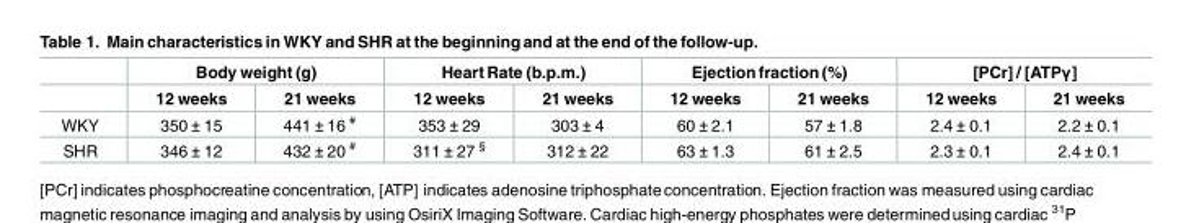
<table><thead><tr><td rowspan="2"></td><td colspan="2">Body weight (g)</td><td colspan="2">Heart Rate (b.p.m.)</td><td colspan="2">Ejection fraction (%)</td><td colspan="2">[PCr] / [ATPγ]</td></tr><tr><td>12 weeks</td><td>21 weeks</td><td>12 weeks</td><td>21 weeks</td><td>12 weeks</td><td>21 weeks</td><td>12 weeks</td><td>21 weeks</td></tr></thead><tbody><tr><td>WKY</td><td>350 ± 15</td><td>441 ± 16 <sup>#</sup></td><td>353 ± 29</td><td>303 ± 4</td><td>60 ± 2.1</td><td>57 ± 1.8</td><td>2.4 ± 0.1</td><td>2.2 ± 0.1</td></tr><tr><td>SHR</td><td>346 ± 12</td><td>432 ± 20 <sup>#</sup></td><td>311 ± 27 <sup>§</sup></td><td>312 ± 22</td><td>63 ± 1.3</td><td>61 ± 2.5</td><td>2.3 ± 0.1</td><td>2.4 ± 0.1</td></tr></tbody></table>